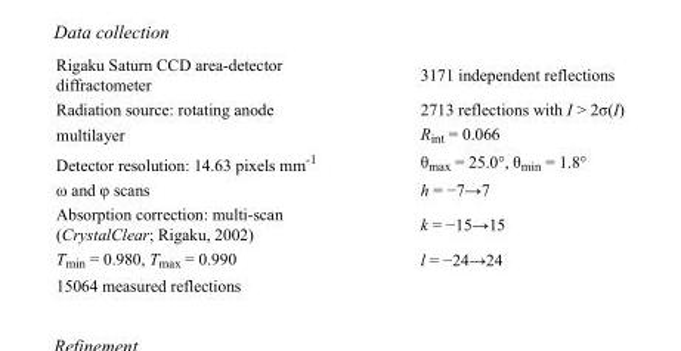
<table><tbody><tr><td>Rigaku Saturn CCD area-detector diffractometer</td><td>3171 independent reflections</td></tr><tr><td>Radiation source: rotating anode</td><td>2713 reflections with I &gt; 2σ(I)</td></tr><tr><td>multilayer</td><td>R<sub>int</sub> = 0.066</td></tr><tr><td>Detector resolution: 14.63 pixels mm<sup>-1</sup></td><td>θ<sub>max</sub> = 25.0°, θ<sub>min</sub> = 1.8°</td></tr><tr><td>ω and φ scans</td><td>h = −7→7</td></tr><tr><td>Absorption correction: multi-scan (CrystalClear; Rigaku, 2002)</td><td>k = −15→15</td></tr><tr><td>T<sub>min</sub> = 0.980, T<sub>max</sub> = 0.990</td><td>l = −24→24</td></tr><tr><td>15064 measured reflections</td><td></td></tr></tbody></table>